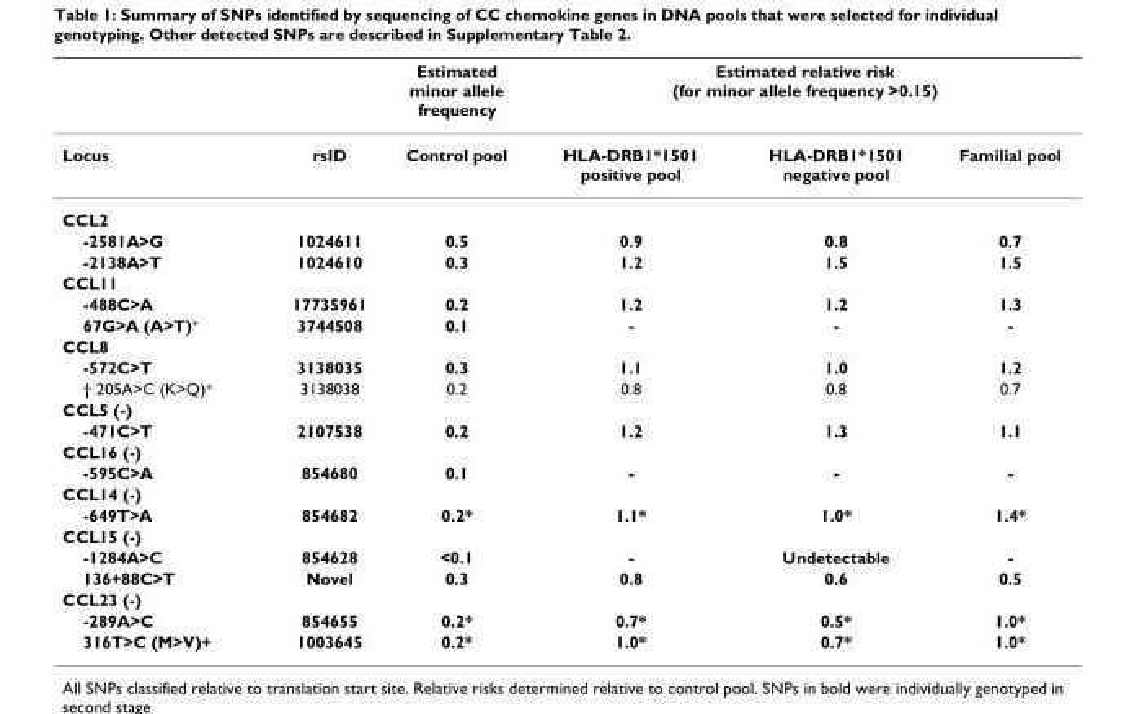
<table><thead><tr><td rowspan="2">Locus</td><td rowspan="2">rsID</td><td rowspan="2">Estimated minor allele frequency Control pool</td><td colspan="3">Estimated relative risk (for minor allele frequency &gt;0.15)</td></tr><tr><td>HLA-DRB1*1501 positive pool</td><td>HLA-DRB1*1501 negative pool</td><td>Familial pool</td></tr></thead><tbody><tr><td colspan="6">CCL2</td></tr><tr><td>-2581A&gt;G</td><td>1024611</td><td>0.5</td><td>0.9</td><td>0.8</td><td>0.7</td></tr><tr><td>-2138A&gt;T</td><td>1024610</td><td>0.3</td><td>1.2</td><td>1.5</td><td>1.5</td></tr><tr><td colspan="6">CCL11</td></tr><tr><td>-488C&gt;A</td><td>17735961</td><td>0.2</td><td>1.2</td><td>1.2</td><td>1.3</td></tr><tr><td>67G&gt;A (A&gt;T)<sup>+</sup></td><td>3744508</td><td>0.1</td><td>-</td><td>-</td><td>-</td></tr><tr><td colspan="6">CCL8</td></tr><tr><td>-572C&gt;T</td><td>3138035</td><td>0.3</td><td>1.1</td><td>1.0</td><td>1.2</td></tr><tr><td>† 205A&gt;C (K&gt;Q)<sup>+</sup></td><td>3138038</td><td>0.2</td><td>0.8</td><td>0.8</td><td>0.7</td></tr><tr><td colspan="6">CCL5 (-)</td></tr><tr><td>-471C&gt;T</td><td>2107538</td><td>0.2</td><td>1.2</td><td>1.3</td><td>1.1</td></tr><tr><td colspan="6">CCL16 (-)</td></tr><tr><td>-595C&gt;A</td><td>854680</td><td>0.1</td><td>-</td><td>-</td><td>-</td></tr><tr><td colspan="6">CCL14 (-)</td></tr><tr><td>-649T&gt;A</td><td>854682</td><td>0.2*</td><td>1.1*</td><td>1.0*</td><td>1.4*</td></tr><tr><td colspan="6">CCL15 (-)</td></tr><tr><td>-1284A&gt;C</td><td>854628</td><td>&lt;0.1</td><td>-</td><td>Undetectable</td><td>-</td></tr><tr><td>136+88C&gt;T</td><td>Novel</td><td>0.3</td><td>0.8</td><td>0.6</td><td>0.5</td></tr><tr><td colspan="6">CCL23 (-)</td></tr><tr><td>-289A&gt;C</td><td>854655</td><td>0.2*</td><td>0.7*</td><td>0.5*</td><td>1.0*</td></tr><tr><td>316T&gt;C (M&gt;V)+</td><td>1003645</td><td>0.2*</td><td>1.0*</td><td>0.7*</td><td>1.0*</td></tr></tbody></table>